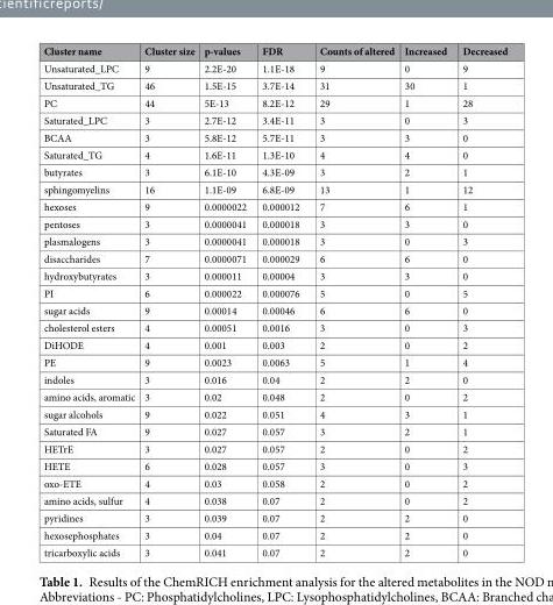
<table><thead><tr><td>Cluster name</td><td>Cluster size</td><td>p-values</td><td>FDR</td><td>Counts of altered</td><td>Increased</td><td>Decreased</td></tr></thead><tbody><tr><td>Unsaturated_LPC</td><td>9</td><td>2.2E-20</td><td>1.1E-18</td><td>9</td><td>0</td><td>9</td></tr><tr><td>Unsaturated_TG</td><td>46</td><td>1.5E-15</td><td>3.7E-14</td><td>31</td><td>30</td><td>1</td></tr><tr><td>PC</td><td>44</td><td>5E-13</td><td>8.2E-12</td><td>29</td><td>1</td><td>28</td></tr><tr><td>Saturated_LPC</td><td>3</td><td>2.7E-12</td><td>3.4E-11</td><td>3</td><td>0</td><td>3</td></tr><tr><td>BCAA</td><td>3</td><td>5.8E-12</td><td>5.7E-11</td><td>3</td><td>3</td><td>0</td></tr><tr><td>Saturated_TG</td><td>4</td><td>1.6E-11</td><td>1.3E-10</td><td>4</td><td>4</td><td>0</td></tr><tr><td>butyrates</td><td>3</td><td>6.1E-10</td><td>4.3E-09</td><td>3</td><td>2</td><td>1</td></tr><tr><td>sphingomyelins</td><td>16</td><td>1.1E-09</td><td>6.8E-09</td><td>13</td><td>1</td><td>12</td></tr><tr><td>hexoses</td><td>9</td><td>0.0000022</td><td>0.000012</td><td>7</td><td>6</td><td>1</td></tr><tr><td>pentoses</td><td>3</td><td>0.0000041</td><td>0.000018</td><td>3</td><td>3</td><td>0</td></tr><tr><td>plasmalogens</td><td>3</td><td>0.0000041</td><td>0.000018</td><td>3</td><td>0</td><td>3</td></tr><tr><td>disaccharides</td><td>7</td><td>0.0000071</td><td>0.000029</td><td>6</td><td>6</td><td>0</td></tr><tr><td>hydroxybutyrates</td><td>3</td><td>0.000011</td><td>0.00004</td><td>3</td><td>3</td><td>0</td></tr><tr><td>PI</td><td>6</td><td>0.000022</td><td>0.000076</td><td>5</td><td>0</td><td>5</td></tr><tr><td>sugar acids</td><td>9</td><td>0.00014</td><td>0.00046</td><td>6</td><td>6</td><td>0</td></tr><tr><td>cholesterol esters</td><td>4</td><td>0.00051</td><td>0.0016</td><td>3</td><td>0</td><td>3</td></tr><tr><td>DiHODE</td><td>4</td><td>0.001</td><td>0.003</td><td>2</td><td>0</td><td>2</td></tr><tr><td>PE</td><td>9</td><td>0.0023</td><td>0.0063</td><td>5</td><td>1</td><td>4</td></tr><tr><td>indoles</td><td>3</td><td>0.016</td><td>0.04</td><td>2</td><td>2</td><td>0</td></tr><tr><td>amino acids, aromatic</td><td>3</td><td>0.02</td><td>0.048</td><td>2</td><td>0</td><td>2</td></tr><tr><td>sugar alcohols</td><td>9</td><td>0.022</td><td>0.051</td><td>4</td><td>3</td><td>1</td></tr><tr><td>Saturated FA</td><td>9</td><td>0.027</td><td>0.057</td><td>3</td><td>2</td><td>1</td></tr><tr><td>HETrE</td><td>3</td><td>0.027</td><td>0.057</td><td>2</td><td>0</td><td>2</td></tr><tr><td>HETE</td><td>6</td><td>0.028</td><td>0.057</td><td>3</td><td>0</td><td>3</td></tr><tr><td>oxo-ETE</td><td>4</td><td>0.03</td><td>0.058</td><td>2</td><td>0</td><td>2</td></tr><tr><td>amino acids, sulfur</td><td>4</td><td>0.038</td><td>0.07</td><td>2</td><td>0</td><td>2</td></tr><tr><td>pyridines</td><td>3</td><td>0.039</td><td>0.07</td><td>2</td><td>2</td><td>0</td></tr><tr><td>hexosephosphates</td><td>3</td><td>0.04</td><td>0.07</td><td>2</td><td>2</td><td>0</td></tr><tr><td>tricarboxylic acids</td><td>3</td><td>0.041</td><td>0.07</td><td>2</td><td>2</td><td>0</td></tr></tbody></table>